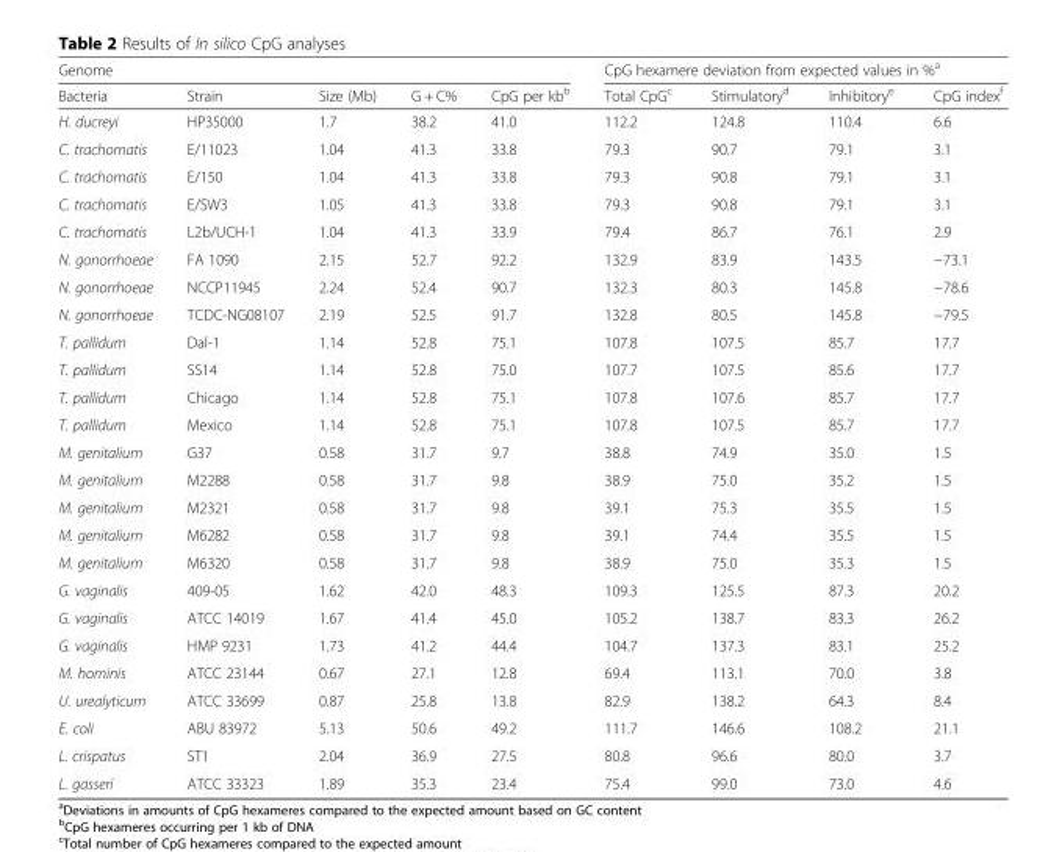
<table><thead><tr><td colspan="5">Genome</td><td colspan="4">CpG hexamere deviation from expected values in %<sup>a</sup></td></tr><tr><td>Bacteria</td><td>Strain</td><td>Size (Mb)</td><td>G + C%</td><td>CpG per kb<sup>b</sup></td><td>Total CpG<sup>c</sup></td><td>Stimulatory<sup>d</sup></td><td>Inhibitory<sup>e</sup></td><td>CpG index<sup>f</sup></td></tr></thead><tbody><tr><td>H. ducreyi</td><td>HP35000</td><td>1.7</td><td>38.2</td><td>41.0</td><td>112.2</td><td>124.8</td><td>110.4</td><td>6.6</td></tr><tr><td>C. trachomatis</td><td>E/11023</td><td>1.04</td><td>41.3</td><td>33.8</td><td>79.3</td><td>90.7</td><td>79.1</td><td>3.1</td></tr><tr><td>C. trachomatis</td><td>E/150</td><td>1.04</td><td>41.3</td><td>33.8</td><td>79.3</td><td>90.8</td><td>79.1</td><td>3.1</td></tr><tr><td>C. trachomatis</td><td>E/SW3</td><td>1.05</td><td>41.3</td><td>33.8</td><td>79.3</td><td>90.8</td><td>79.1</td><td>3.1</td></tr><tr><td>C. trachomatis</td><td>L2b/UCH-1</td><td>1.04</td><td>41.3</td><td>33.9</td><td>79.4</td><td>86.7</td><td>76.1</td><td>2.9</td></tr><tr><td>N. gonorrhoeae</td><td>FA 1090</td><td>2.15</td><td>52.7</td><td>92.2</td><td>132.9</td><td>83.9</td><td>143.5</td><td>−73.1</td></tr><tr><td>N. gonorrhoeae</td><td>NCCP11945</td><td>2.24</td><td>52.4</td><td>90.7</td><td>132.3</td><td>80.3</td><td>145.8</td><td>−78.6</td></tr><tr><td>N. gonorrhoeae</td><td>TCDC-NG08107</td><td>2.19</td><td>52.5</td><td>91.7</td><td>132.8</td><td>80.5</td><td>145.8</td><td>−79.5</td></tr><tr><td>T. pallidum</td><td>Dal-1</td><td>1.14</td><td>52.8</td><td>75.1</td><td>107.8</td><td>107.5</td><td>85.7</td><td>17.7</td></tr><tr><td>T. pallidum</td><td>SS14</td><td>1.14</td><td>52.8</td><td>75.0</td><td>107.7</td><td>107.5</td><td>85.6</td><td>17.7</td></tr><tr><td>T. pallidum</td><td>Chicago</td><td>1.14</td><td>52.8</td><td>75.1</td><td>107.8</td><td>107.6</td><td>85.7</td><td>17.7</td></tr><tr><td>T. pallidum</td><td>Mexico</td><td>1.14</td><td>52.8</td><td>75.1</td><td>107.8</td><td>107.5</td><td>85.7</td><td>17.7</td></tr><tr><td>M. genitalium</td><td>G37</td><td>0.58</td><td>31.7</td><td>9.7</td><td>38.8</td><td>74.9</td><td>35.0</td><td>1.5</td></tr><tr><td>M. genitalium</td><td>M2288</td><td>0.58</td><td>31.7</td><td>9.8</td><td>38.9</td><td>75.0</td><td>35.2</td><td>1.5</td></tr><tr><td>M. genitalium</td><td>M2321</td><td>0.58</td><td>31.7</td><td>9.8</td><td>39.1</td><td>75.3</td><td>35.5</td><td>1.5</td></tr><tr><td>M. genitalium</td><td>M6282</td><td>0.58</td><td>31.7</td><td>9.8</td><td>39.1</td><td>74.4</td><td>35.5</td><td>1.5</td></tr><tr><td>M. genitalium</td><td>M6320</td><td>0.58</td><td>31.7</td><td>9.8</td><td>38.9</td><td>75.0</td><td>35.3</td><td>1.5</td></tr><tr><td>G. vaginalis</td><td>409-05</td><td>1.62</td><td>42.0</td><td>48.3</td><td>109.3</td><td>125.5</td><td>87.3</td><td>20.2</td></tr><tr><td>G. vaginalis</td><td>ATCC 14019</td><td>1.67</td><td>41.4</td><td>45.0</td><td>105.2</td><td>138.7</td><td>83.3</td><td>26.2</td></tr><tr><td>G. vaginalis</td><td>HMP 9231</td><td>1.73</td><td>41.2</td><td>44.4</td><td>104.7</td><td>137.3</td><td>83.1</td><td>25.2</td></tr><tr><td>M. hominis</td><td>ATCC 23144</td><td>0.67</td><td>27.1</td><td>12.8</td><td>69.4</td><td>113.1</td><td>70.0</td><td>3.8</td></tr><tr><td>U. urealyticum</td><td>ATCC 33699</td><td>0.87</td><td>25.8</td><td>13.8</td><td>82.9</td><td>138.2</td><td>64.3</td><td>8.4</td></tr><tr><td>E. coli</td><td>ABU 83972</td><td>5.13</td><td>50.6</td><td>49.2</td><td>111.7</td><td>146.6</td><td>108.2</td><td>21.1</td></tr><tr><td>L. crispatus</td><td>ST1</td><td>2.04</td><td>36.9</td><td>27.5</td><td>80.8</td><td>96.6</td><td>80.0</td><td>3.7</td></tr><tr><td>L. gasseri</td><td>ATCC 33323</td><td>1.89</td><td>35.3</td><td>23.4</td><td>75.4</td><td>99.0</td><td>73.0</td><td>4.6</td></tr></tbody></table>